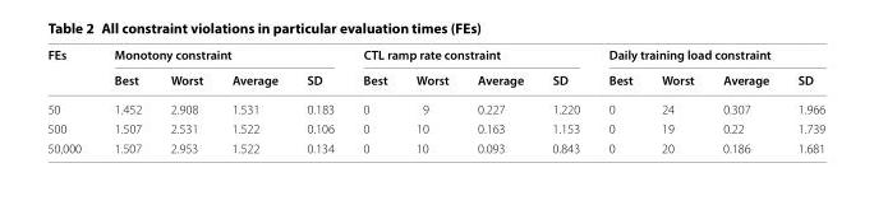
<table><thead><tr><td rowspan="2">FEs</td><td colspan="4">Monotony constraint</td><td colspan="4">CTL ramp rate constraint</td><td colspan="4">Daily training load constraint</td></tr><tr><td>Best</td><td>Worst</td><td>Average</td><td>SD</td><td>Best</td><td>Worst</td><td>Average</td><td>SD</td><td>Best</td><td>Worst</td><td>Average</td><td>SD</td></tr></thead><tbody><tr><td>50</td><td>1.452</td><td>2.908</td><td>1.531</td><td>0.183</td><td>0</td><td>9</td><td>0.227</td><td>1.220</td><td>0</td><td>24</td><td>0.307</td><td>1.966</td></tr><tr><td>500</td><td>1.507</td><td>2.531</td><td>1.522</td><td>0.106</td><td>0</td><td>10</td><td>0.163</td><td>1.153</td><td>0</td><td>19</td><td>0.22</td><td>1.739</td></tr><tr><td>50,000</td><td>1.507</td><td>2.953</td><td>1.522</td><td>0.134</td><td>0</td><td>10</td><td>0.093</td><td>0.843</td><td>0</td><td>20</td><td>0.186</td><td>1.681</td></tr></tbody></table>